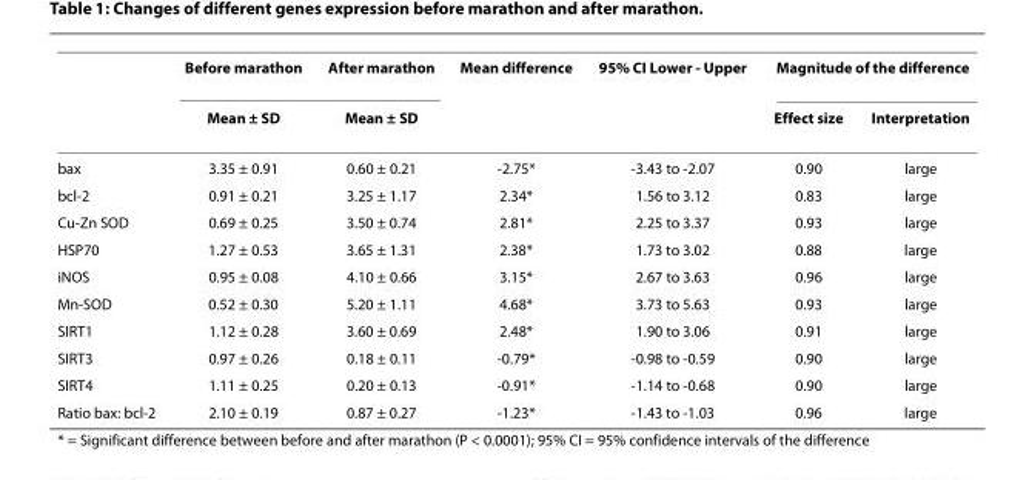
<table><thead><tr><td rowspan="2"></td><td rowspan="2">Before marathon Mean ± SD</td><td rowspan="2">After marathon Mean ± SD</td><td rowspan="2">Mean difference</td><td rowspan="2">95% CI Lower - Upper</td><td colspan="2">Magnitude of the difference</td></tr><tr><td>Effect size</td><td>Interpretation</td></tr></thead><tbody><tr><td>bax</td><td>3.35 ± 0.91</td><td>0.60 ± 0.21</td><td>-2.75*</td><td>-3.43 to -2.07</td><td>0.90</td><td>large</td></tr><tr><td>bcl-2</td><td>0.91 ± 0.21</td><td>3.25 ± 1.17</td><td>2.34*</td><td>1.56 to 3.12</td><td>0.83</td><td>large</td></tr><tr><td>Cu-Zn SOD</td><td>0.69 ± 0.25</td><td>3.50 ± 0.74</td><td>2.81*</td><td>2.25 to 3.37</td><td>0.93</td><td>large</td></tr><tr><td>HSP70</td><td>1.27 ± 0.53</td><td>3.65 ± 1.31</td><td>2.38*</td><td>1.73 to 3.02</td><td>0.88</td><td>large</td></tr><tr><td>iNOS</td><td>0.95 ± 0.08</td><td>4.10 ± 0.66</td><td>3.15*</td><td>2.67 to 3.63</td><td>0.96</td><td>large</td></tr><tr><td>Mn-SOD</td><td>0.52 ± 0.30</td><td>5.20 ± 1.11</td><td>4.68*</td><td>3.73 to 5.63</td><td>0.93</td><td>large</td></tr><tr><td>SIRT1</td><td>1.12 ± 0.28</td><td>3.60 ± 0.69</td><td>2.48*</td><td>1.90 to 3.06</td><td>0.91</td><td>large</td></tr><tr><td>SIRT3</td><td>0.97 ± 0.26</td><td>0.18 ± 0.11</td><td>-0.79*</td><td>-0.98 to -0.59</td><td>0.90</td><td>large</td></tr><tr><td>SIRT4</td><td>1.11 ± 0.25</td><td>0.20 ± 0.13</td><td>-0.91*</td><td>-1.14 to -0.68</td><td>0.90</td><td>large</td></tr><tr><td>Ratio bax: bcl-2</td><td>2.10 ± 0.19</td><td>0.87 ± 0.27</td><td>-1.23*</td><td>-1.43 to -1.03</td><td>0.96</td><td>large</td></tr></tbody></table>